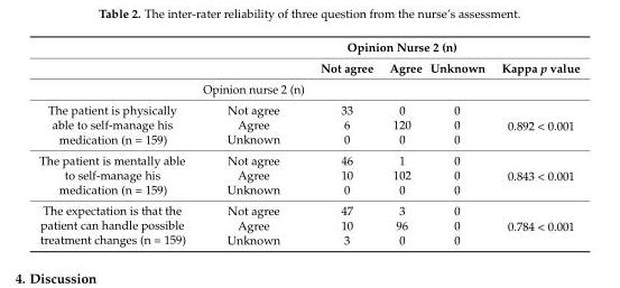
<table><thead><tr><td rowspan="2"></td><td rowspan="2"></td><td colspan="3">Opinion Nurse 2 (n)</td><td rowspan="2">Kappa p value</td></tr><tr><td>Not agree</td><td>Agree</td><td>Unknown</td></tr></thead><tbody><tr><td></td><td>Opinion nurse 2 (n)</td><td></td><td></td><td></td><td></td></tr><tr><td rowspan="3">The patient is physically able to self-manage his medication (n = 159)</td><td>Not agree</td><td>33</td><td>0</td><td>0</td><td rowspan="3">0.892 &lt; 0.001</td></tr><tr><td>Agree</td><td>6</td><td>120</td><td>0</td></tr><tr><td>Unknown</td><td>0</td><td>0</td><td>0</td></tr><tr><td rowspan="3">The patient is mentally able to self-manage his medication (n = 159)</td><td>Not agree</td><td>46</td><td>1</td><td>0</td><td rowspan="3">0.843 &lt; 0.001</td></tr><tr><td>Agree</td><td>10</td><td>102</td><td>0</td></tr><tr><td>Unknown</td><td>0</td><td>0</td><td>0</td></tr><tr><td rowspan="3">The expectation is that the patient can handle possible treatment changes (n = 159)</td><td>Not agree</td><td>47</td><td>3</td><td>0</td><td rowspan="3">0.784 &lt; 0.001</td></tr><tr><td>Agree</td><td>10</td><td>96</td><td>0</td></tr><tr><td>Unknown</td><td>3</td><td>0</td><td>0</td></tr></tbody></table>